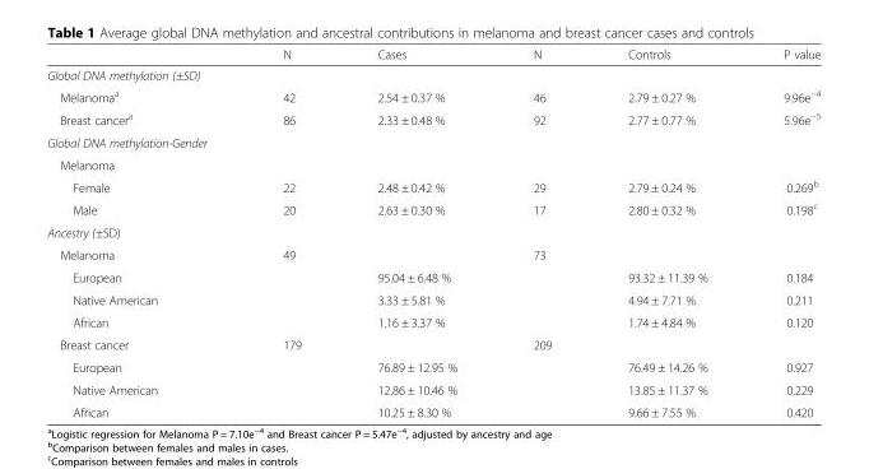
<table><thead><tr><td></td><td>N</td><td>Cases</td><td>N</td><td>Controls</td><td>P value</td></tr></thead><tbody><tr><td colspan="6">Global DNA methylation (±SD)</td></tr><tr><td>Melanoma<sup>a</sup></td><td>42</td><td>2.54 ± 0.37 %</td><td>46</td><td>2.79 ± 0.27 %</td><td>9.96e<sup>−4</sup></td></tr><tr><td>Breast cancer<sup>a</sup></td><td>86</td><td>2.33 ± 0.48 %</td><td>92</td><td>2.77 ± 0.77 %</td><td>5.96e<sup>−5</sup></td></tr><tr><td colspan="6">Global DNA methylation-Gender</td></tr><tr><td colspan="6">Melanoma</td></tr><tr><td>Female</td><td>22</td><td>2.48 ± 0.42 %</td><td>29</td><td>2.79 ± 0.24 %</td><td>0.269<sup>b</sup></td></tr><tr><td>Male</td><td>20</td><td>2.63 ± 0.30 %</td><td>17</td><td>2.80 ± 0.32 %</td><td>0.198<sup>c</sup></td></tr><tr><td colspan="6">Ancestry (±SD)</td></tr><tr><td>Melanoma</td><td>49</td><td></td><td>73</td><td></td><td></td></tr><tr><td>European</td><td></td><td>95.04 ± 6.48 %</td><td></td><td>93.32 ± 11.39 %</td><td>0.184</td></tr><tr><td>Native American</td><td></td><td>3.33 ± 5.81 %</td><td></td><td>4.94 ± 7.71 %</td><td>0.211</td></tr><tr><td>African</td><td></td><td>1.16 ± 3.37 %</td><td></td><td>1.74 ± 4.84 %</td><td>0.120</td></tr><tr><td>Breast cancer</td><td>179</td><td></td><td>209</td><td></td><td></td></tr><tr><td>European</td><td></td><td>76.89 ± 12.95 %</td><td></td><td>76.49 ± 14.26 %</td><td>0.927</td></tr><tr><td>Native American</td><td></td><td>12.86 ± 10.46 %</td><td></td><td>13.85 ± 11.37 %</td><td>0.229</td></tr><tr><td>African</td><td></td><td>10.25 ± 8.30 %</td><td></td><td>9.66 ± 7.55 %</td><td>0.420</td></tr></tbody></table>